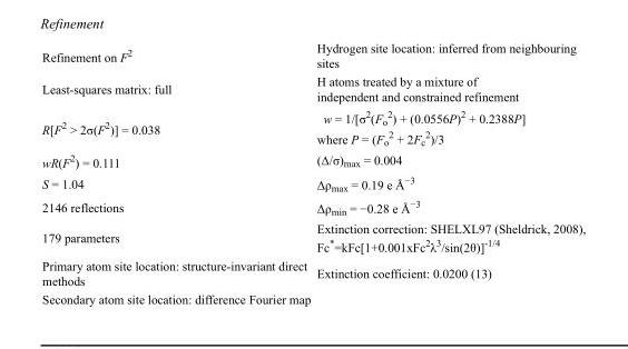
<table><tbody><tr><td>Refinement on F<sup>2</sup></td><td>Hydrogen site location: inferred from neighbouring sites</td></tr><tr><td>Least-squares matrix: full</td><td>H atoms treated by a mixture of independent and constrained refinement</td></tr><tr><td>R[F<sup>2</sup> &gt; 2σ(F<sup>2</sup>)] = 0.038</td><td>w = 1/[σ<sup>2</sup>(F<sub>o</sub> <sup>2</sup>) + (0.0556P)<sup>2</sup> + 0.2388P] where P = (F<sub>o</sub> <sup>2</sup> + 2F<sub>c</sub> <sup>2</sup>)/3</td></tr><tr><td>wR(F<sup>2</sup>) = 0.111</td><td>(Δ/σ)<sub>max</sub> = 0.004</td></tr><tr><td>S = 1.04</td><td>Δρ<sub>max</sub> = 0.19 e Å<sup>−3</sup></td></tr><tr><td>2146 reflections</td><td>Δρ<sub>min</sub> = −0.28 e Å<sup>−3</sup></td></tr><tr><td>179 parameters</td><td>Extinction correction: SHELXL97 (Sheldrick, 2008), Fc*=kFc[1+0.001xFc<sup>2</sup>λ<sup>3</sup>/sin(2θ)]<sup>-1/4</sup></td></tr><tr><td>Primary atom site location: structure-invariant direct methods</td><td>Extinction coefficient: 0.0200 (13)</td></tr><tr><td>Secondary atom site location: difference Fourier map</td><td></td></tr></tbody></table>